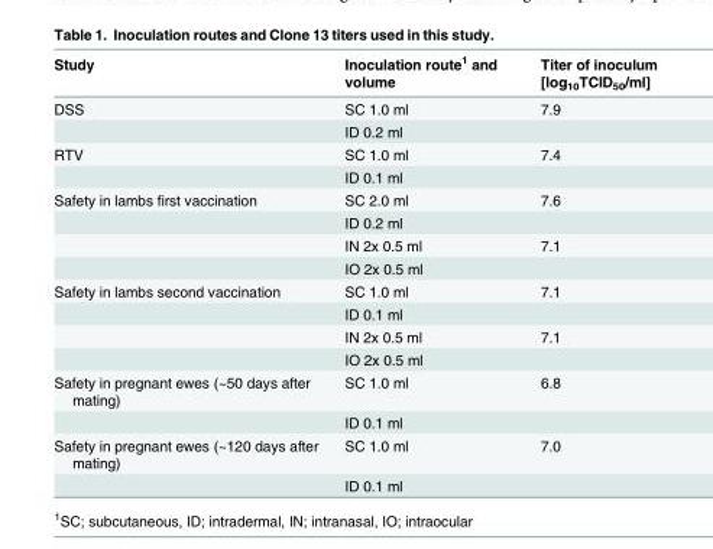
<table><thead><tr><td>Study</td><td>Inoculation route<sup>1</sup> and volume</td><td>Titer of inoculum [log<sub>10</sub>TCID<sub>50</sub>/ml]</td></tr></thead><tbody><tr><td rowspan="2">DSS</td><td>SC 1.0 ml</td><td>7.9</td></tr><tr><td>ID 0.2 ml</td><td></td></tr><tr><td rowspan="2">RTV</td><td>SC 1.0 ml</td><td>7.4</td></tr><tr><td>ID 0.1 ml</td><td></td></tr><tr><td rowspan="4">Safety in lambs first vaccination</td><td>SC 2.0 ml</td><td>7.6</td></tr><tr><td>ID 0.2 ml</td><td></td></tr><tr><td>IN 2x 0.5 ml</td><td>7.1</td></tr><tr><td>IO 2x 0.5 ml</td><td></td></tr><tr><td rowspan="4">Safety in lambs second vaccination</td><td>SC 1.0 ml</td><td>7.1</td></tr><tr><td>ID 0.1 ml</td><td></td></tr><tr><td>IN 2x 0.5 ml</td><td>7.1</td></tr><tr><td>IO 2x 0.5 ml</td><td></td></tr><tr><td rowspan="2">Safety in pregnant ewes (~50 days after mating)</td><td>SC 1.0 ml</td><td>6.8</td></tr><tr><td>ID 0.1 ml</td><td></td></tr><tr><td rowspan="2">Safety in pregnant ewes (~120 days after mating)</td><td>SC 1.0 ml</td><td>7.0</td></tr><tr><td>ID 0.1 ml</td><td></td></tr></tbody></table>